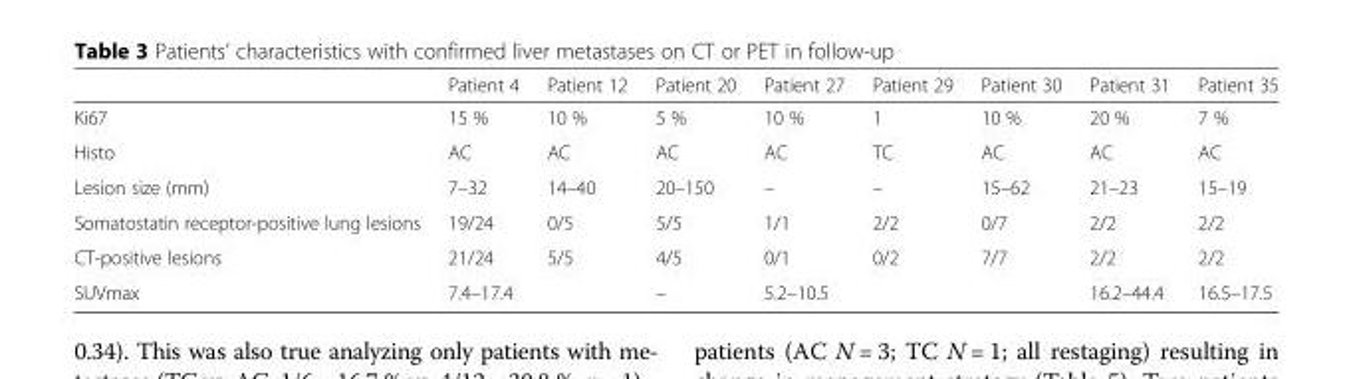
<table><thead><tr><td></td><td>Patient 4</td><td>Patient 12</td><td>Patient 20</td><td>Patient 27</td><td>Patient 29</td><td>Patient 30</td><td>Patient 31</td><td>Patient 35</td></tr></thead><tbody><tr><td>Ki67</td><td>15 %</td><td>10 %</td><td>5 %</td><td>10 %</td><td>1</td><td>10 %</td><td>20 %</td><td>7 %</td></tr><tr><td>Histo</td><td>AC</td><td>AC</td><td>AC</td><td>AC</td><td>TC</td><td>AC</td><td>AC</td><td>AC</td></tr><tr><td>Lesion size (mm)</td><td>7–32</td><td>14–40</td><td>20–150</td><td>–</td><td>–</td><td>15–62</td><td>21–23</td><td>15–19</td></tr><tr><td>Somatostatin receptor-positive lung lesions</td><td>19/24</td><td>0/5</td><td>5/5</td><td>1/1</td><td>2/2</td><td>0/7</td><td>2/2</td><td>2/2</td></tr><tr><td>CT-positive lesions</td><td>21/24</td><td>5/5</td><td>4/5</td><td>0/1</td><td>0/2</td><td>7/7</td><td>2/2</td><td>2/2</td></tr><tr><td>SUVmax</td><td>7.4–17.4</td><td></td><td>–</td><td>5.2–10.5</td><td></td><td></td><td>16.2–44.4</td><td>16.5–17.5</td></tr></tbody></table>